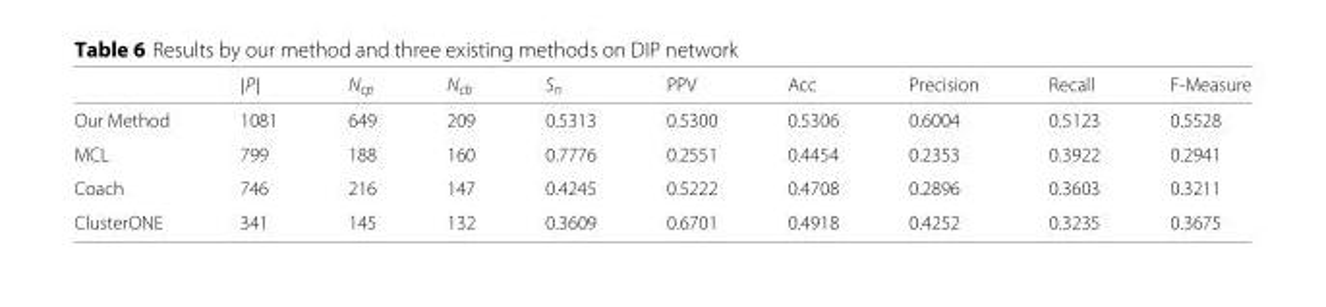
<table><thead><tr><td></td><td>|P|</td><td>N<sub>cp</sub></td><td>N<sub>cb</sub></td><td>S<sub>n</sub></td><td>PPV</td><td>Acc</td><td>Precision</td><td>Recall</td><td>F-Measure</td></tr></thead><tbody><tr><td>Our Method</td><td>1081</td><td>649</td><td>209</td><td>0.5313</td><td>0.5300</td><td>0.5306</td><td>0.6004</td><td>0.5123</td><td>0.5528</td></tr><tr><td>MCL</td><td>799</td><td>188</td><td>160</td><td>0.7776</td><td>0.2551</td><td>0.4454</td><td>0.2353</td><td>0.3922</td><td>0.2941</td></tr><tr><td>Coach</td><td>746</td><td>216</td><td>147</td><td>0.4245</td><td>0.5222</td><td>0.4708</td><td>0.2896</td><td>0.3603</td><td>0.3211</td></tr><tr><td>ClusterONE</td><td>341</td><td>145</td><td>132</td><td>0.3609</td><td>0.6701</td><td>0.4918</td><td>0.4252</td><td>0.3235</td><td>0.3675</td></tr></tbody></table>